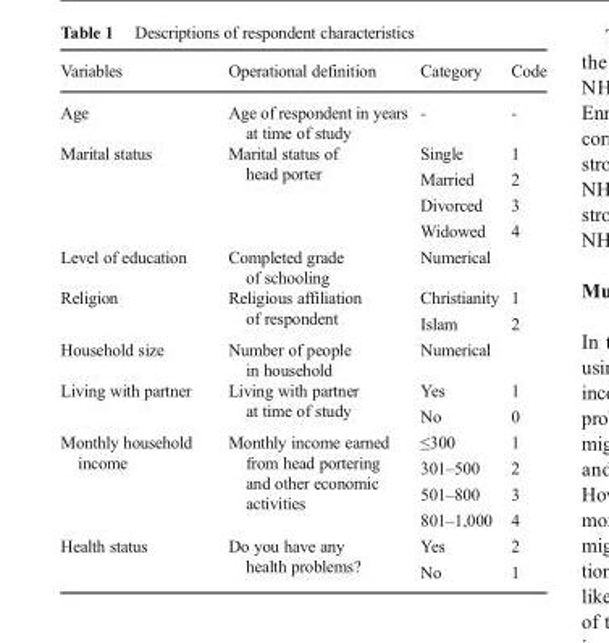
<table><thead><tr><td>Variables</td><td>Operational definition</td><td>Category</td><td>Code</td></tr></thead><tbody><tr><td>Age</td><td>Age of respondent in years at time of study</td><td>-</td><td>-</td></tr><tr><td rowspan="4">Marital status</td><td rowspan="4">Marital status of head porter</td><td>Single</td><td>1</td></tr><tr><td>Married</td><td>2</td></tr><tr><td>Divorced</td><td>3</td></tr><tr><td>Widowed</td><td>4</td></tr><tr><td>Level of education</td><td>Completed grade of schooling</td><td>Numerical</td><td></td></tr><tr><td rowspan="2">Religion</td><td rowspan="2">Religious affiliation of respondent</td><td>Christianity</td><td>1</td></tr><tr><td>Islam</td><td>2</td></tr><tr><td>Household size</td><td>Number of people in household</td><td>Numerical</td><td></td></tr><tr><td rowspan="2">Living with partner</td><td rowspan="2">Living with partner at time of study</td><td>Yes</td><td>1</td></tr><tr><td>No</td><td>0</td></tr><tr><td rowspan="4">Monthly household income</td><td rowspan="4">Monthly income earned from head portering and other economic activities</td><td>≤300</td><td>1</td></tr><tr><td>301–500</td><td>2</td></tr><tr><td>501–800</td><td>3</td></tr><tr><td>801–1,000</td><td>4</td></tr><tr><td rowspan="2">Health status</td><td rowspan="2">Do you have any health problems?</td><td>Yes</td><td>2</td></tr><tr><td>No</td><td>1</td></tr></tbody></table>